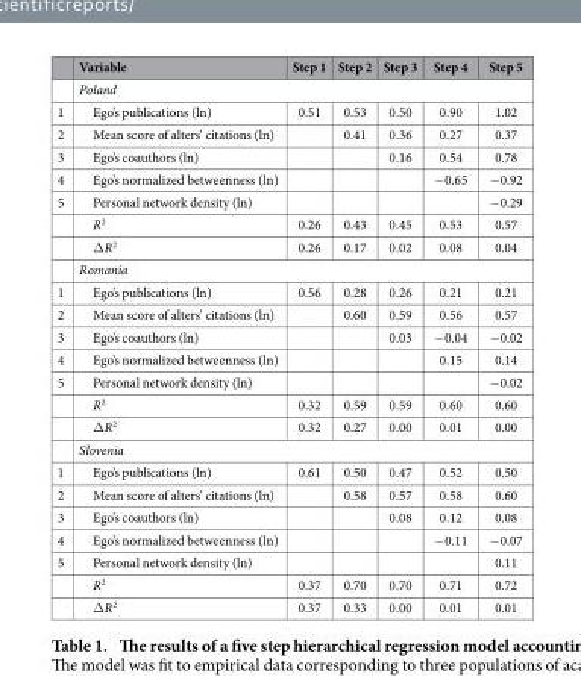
<table><thead><tr><td></td><td>Variable</td><td>Step 1</td><td>Step 2</td><td>Step 3</td><td>Step 4</td><td>Step 5</td></tr></thead><tbody><tr><td></td><td colspan="6">Poland</td></tr><tr><td>1</td><td>Ego’s publications (ln)</td><td>0.51</td><td>0.53</td><td>0.50</td><td>0.90</td><td>1.02</td></tr><tr><td>2</td><td>Mean score of alters’ citations (ln)</td><td></td><td>0.41</td><td>0.36</td><td>0.27</td><td>0.37</td></tr><tr><td>3</td><td>Ego’s coauthors (ln)</td><td></td><td></td><td>0.16</td><td>0.54</td><td>0.78</td></tr><tr><td>4</td><td>Ego’s normalized betweenness (ln)</td><td></td><td></td><td></td><td>− 0.65</td><td>− 0.92</td></tr><tr><td rowspan="4">5</td><td>Personal network density (ln)</td><td></td><td></td><td></td><td></td><td>− 0.29</td></tr><tr><td>R<sup>2</sup></td><td>0.26</td><td>0.43</td><td>0.45</td><td>0.53</td><td>0.57</td></tr><tr><td>Δ R<sup>2</sup></td><td>0.26</td><td>0.17</td><td>0.02</td><td>0.08</td><td>0.04</td></tr><tr><td colspan="6">Romania</td></tr><tr><td>1</td><td>Ego’s publications (ln)</td><td>0.56</td><td>0.28</td><td>0.26</td><td>0.21</td><td>0.21</td></tr><tr><td>2</td><td>Mean score of alters’ citations (ln)</td><td></td><td>0.60</td><td>0.59</td><td>0.56</td><td>0.57</td></tr><tr><td>3</td><td>Ego’s coauthors (ln)</td><td></td><td></td><td>0.03</td><td>− 0.04</td><td>− 0.02</td></tr><tr><td>4</td><td>Ego’s normalized betweenness (ln)</td><td></td><td></td><td></td><td>0.15</td><td>0.14</td></tr><tr><td rowspan="4">5</td><td>Personal network density (ln)</td><td></td><td></td><td></td><td></td><td>− 0.02</td></tr><tr><td>R<sup>2</sup></td><td>0.32</td><td>0.59</td><td>0.59</td><td>0.60</td><td>0.60</td></tr><tr><td>Δ R<sup>2</sup></td><td>0.32</td><td>0.27</td><td>0.00</td><td>0.01</td><td>0.00</td></tr><tr><td colspan="6">Slovenia</td></tr><tr><td>1</td><td>Ego’s publications (ln)</td><td>0.61</td><td>0.50</td><td>0.47</td><td>0.52</td><td>0.50</td></tr><tr><td>2</td><td>Mean score of alters’ citations (ln)</td><td></td><td>0.58</td><td>0.57</td><td>0.58</td><td>0.60</td></tr><tr><td>3</td><td>Ego’s coauthors (ln)</td><td></td><td></td><td>0.08</td><td>0.12</td><td>0.08</td></tr><tr><td>4</td><td>Ego’s normalized betweenness (ln)</td><td></td><td></td><td></td><td>− 0.11</td><td>− 0.07</td></tr><tr><td rowspan="3">5</td><td>Personal network density (ln)</td><td></td><td></td><td></td><td></td><td>0.11</td></tr><tr><td>R<sup>2</sup></td><td>0.37</td><td>0.70</td><td>0.70</td><td>0.71</td><td>0.72</td></tr><tr><td>Δ R<sup>2</sup></td><td>0.37</td><td>0.33</td><td>0.00</td><td>0.01</td><td>0.01</td></tr></tbody></table>